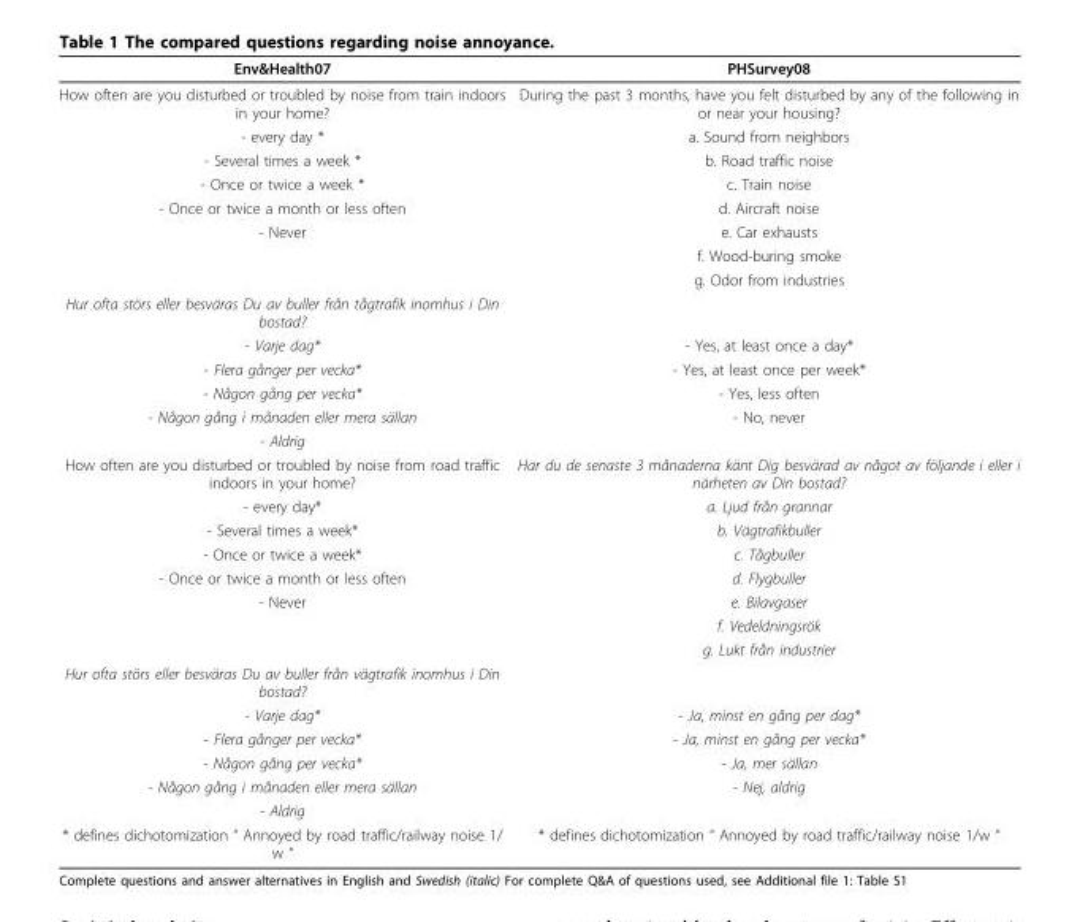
<table><thead><tr><td>Env&amp;Health07</td><td>PHSurvey08</td></tr></thead><tbody><tr><td>How often are you disturbed or troubled by noise from train indoors in your home?</td><td>During the past 3 months, have you felt disturbed by any of the following in or near your housing?</td></tr><tr><td>- every day *</td><td>a. Sound from neighbors</td></tr><tr><td>- Several times a week *</td><td>b. Road traffic noise</td></tr><tr><td>- Once or twice a week *</td><td>c. Train noise</td></tr><tr><td>- Once or twice a month or less often</td><td>d. Aircraft noise</td></tr><tr><td rowspan="3">- Never</td><td>e. Car exhausts</td></tr><tr><td>f. Wood-buring smoke</td></tr><tr><td>g. Odor from industries</td></tr><tr><td colspan="2">Hur ofta störs eller besväras Du av buller från tågtrafik inomhus i Din bostad?</td></tr><tr><td>- Varje dag*</td><td>- Yes, at least once a day*</td></tr><tr><td>- Flera gånger per vecka*</td><td>- Yes, at least once per week*</td></tr><tr><td>- Någon gång per vecka*</td><td>- Yes, less often</td></tr><tr><td>- Någon gång i månaden eller mera sällan</td><td>- No, never</td></tr><tr><td colspan="2">- Aldrig</td></tr><tr><td>How often are you disturbed or troubled by noise from road traffic indoors in your home?</td><td>Har du de senaste 3 månaderna känt Dig besvärad av något av följande i eller i närheten av Din bostad?</td></tr><tr><td>- every day*</td><td>a. Ljud från grannar</td></tr><tr><td>- Several times a week*</td><td>b. Vägtrafikbuller</td></tr><tr><td>- Once or twice a week*</td><td>c. Tågbuller</td></tr><tr><td>- Once or twice a month or less often</td><td>d. Flygbuller</td></tr><tr><td rowspan="3">- Never</td><td>e. Bilavgaser</td></tr><tr><td>f. Vedeldningsrök</td></tr><tr><td>g. Lukt från industrier</td></tr><tr><td colspan="2">Hur ofta störs eller besväras Du av buller från vägtrafik inomhus i Din bostad?</td></tr><tr><td>- Varje dag*</td><td>- Ja, minst en gång per dag*</td></tr><tr><td>- Flera gånger per vecka*</td><td>- Ja, minst en gång per vecka*</td></tr><tr><td>- Någon gång per vecka*</td><td>- Ja, mer sällan</td></tr><tr><td>- Någon gång i månaden eller mera sällan</td><td>- Nej, aldrig</td></tr><tr><td colspan="2">- Aldrig</td></tr><tr><td>* defines dichotomization “ Annoyed by road traffic/railway noise 1/ w “</td><td>* defines dichotomization “ Annoyed by road traffic/railway noise 1/w “</td></tr></tbody></table>